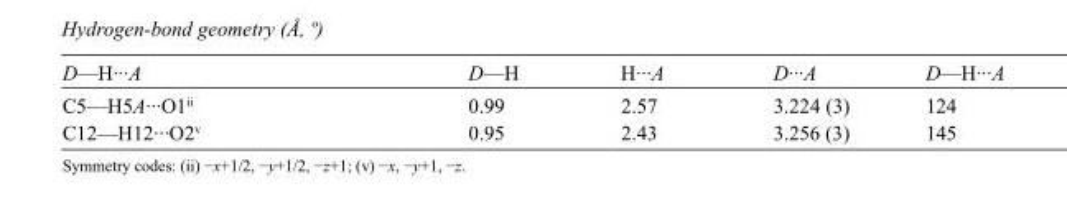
<table><tbody><tr><td>D—H···A</td><td>D—H</td><td>H···A</td><td>D···A</td><td>D—H···A</td></tr><tr><td>C5—H5A···O1<sup>ii</sup></td><td>0.99</td><td>2.57</td><td>3.224 (3)</td><td>124</td></tr><tr><td>C12—H12···O2<sup>v</sup></td><td>0.95</td><td>2.43</td><td>3.256 (3)</td><td>145</td></tr></tbody></table>